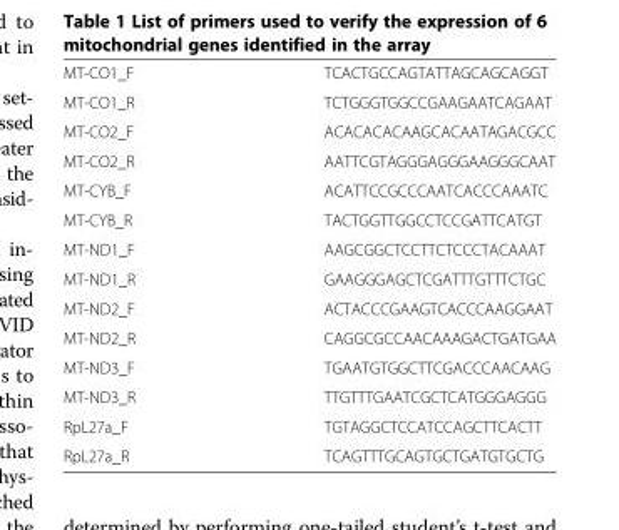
<table><tbody><tr><td>MT-CO1_F</td><td>TCACTGCCAGTATTAGCAGCAGGT</td></tr><tr><td>MT-CO1_R</td><td>TCTGGGTGGCCGAAGAATCAGAAT</td></tr><tr><td>MT-CO2_F</td><td>ACACACACAAGCACAATAGACGCC</td></tr><tr><td>MT-CO2_R</td><td>AATTCGTAGGGAGGGAAGGGCAAT</td></tr><tr><td>MT-CYB_F</td><td>ACATTCCGCCCAATCACCCAAATC</td></tr><tr><td>MT-CYB_R</td><td>TACTGGTTGGCCTCCGATTCATGT</td></tr><tr><td>MT-ND1_F</td><td>AAGCGGCTCCTTCTCCCTACAAAT</td></tr><tr><td>MT-ND1_R</td><td>GAAGGGAGCTCGATTTGTTTCTGC</td></tr><tr><td>MT-ND2_F</td><td>ACTACCCGAAGTCACCCAAGGAAT</td></tr><tr><td>MT-ND2_R</td><td>CAGGCGCCAACAAAGACTGATGAA</td></tr><tr><td>MT-ND3_F</td><td>TGAATGTGGCTTCGACCCAACAAG</td></tr><tr><td>MT-ND3_R</td><td>TTGTTTGAATCGCTCATGGGAGGG</td></tr><tr><td>RpL27a_F</td><td>TGTAGGCTCCATCCAGCTTCACTT</td></tr><tr><td>RpL27a_R</td><td>TCAGTTTGCAGTGCTGATGTGCTG</td></tr></tbody></table>